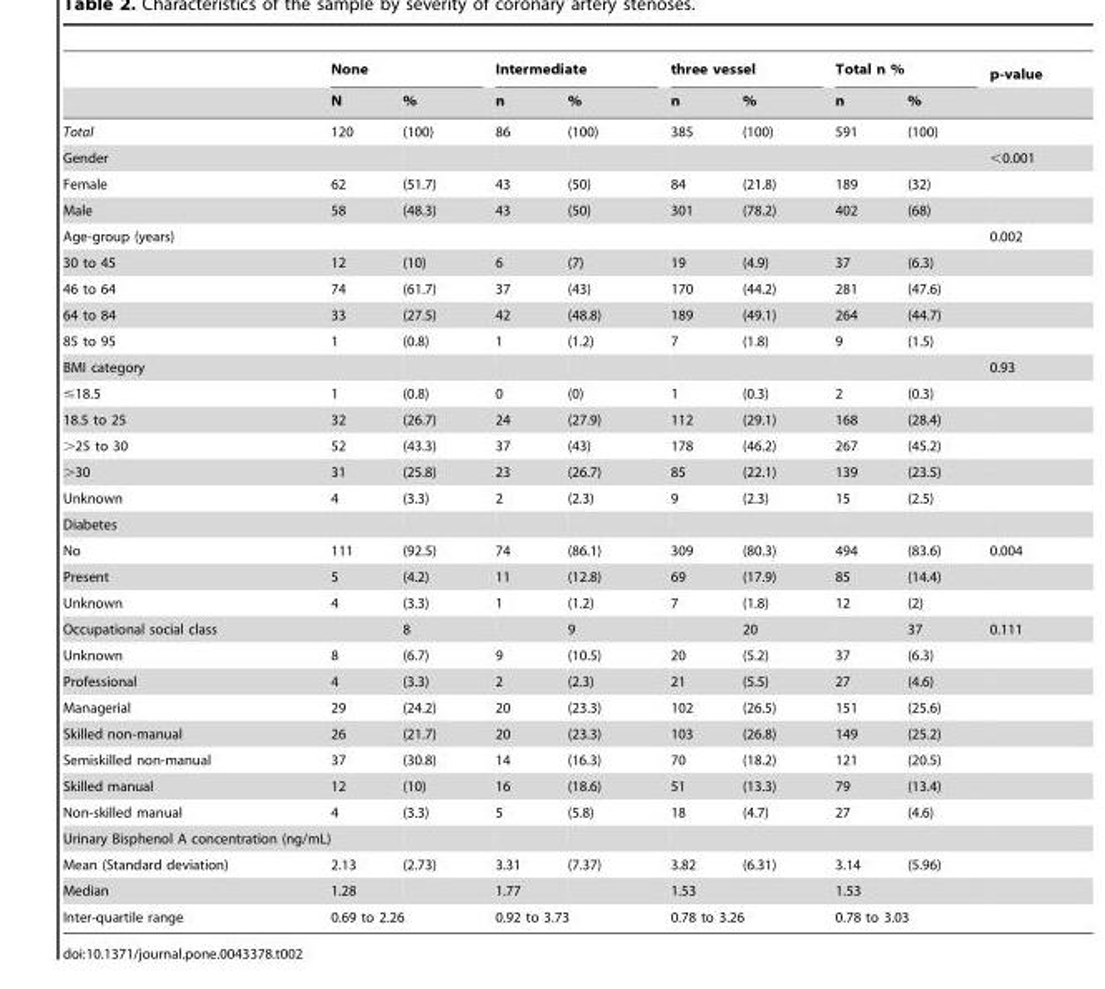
<table><thead><tr><td rowspan="2"></td><td colspan="2">None</td><td colspan="2">Intermediate</td><td colspan="2">three vessel</td><td colspan="2">Total n %</td><td rowspan="2">p-value</td></tr><tr><td>N</td><td>%</td><td>n</td><td>%</td><td>n</td><td>%</td><td>n</td><td>%</td></tr></thead><tbody><tr><td>Total</td><td>120</td><td>(100)</td><td>86</td><td>(100)</td><td>385</td><td>(100)</td><td>591</td><td>(100)</td><td></td></tr><tr><td>Gender</td><td></td><td></td><td></td><td></td><td></td><td></td><td></td><td></td><td>&lt;0.001</td></tr><tr><td>Female</td><td>62</td><td>(51.7)</td><td>43</td><td>(50)</td><td>84</td><td>(21.8)</td><td>189</td><td>(32)</td><td></td></tr><tr><td>Male</td><td>58</td><td>(48.3)</td><td>43</td><td>(50)</td><td>301</td><td>(78.2)</td><td>402</td><td>(68)</td><td></td></tr><tr><td>Age-group (years)</td><td></td><td></td><td></td><td></td><td></td><td></td><td></td><td></td><td>0.002</td></tr><tr><td>30 to 45</td><td>12</td><td>(10)</td><td>6</td><td>(7)</td><td>19</td><td>(4.9)</td><td>37</td><td>(6.3)</td><td></td></tr><tr><td>46 to 64</td><td>74</td><td>(61.7)</td><td>37</td><td>(43)</td><td>170</td><td>(44.2)</td><td>281</td><td>(47.6)</td><td></td></tr><tr><td>64 to 84</td><td>33</td><td>(27.5)</td><td>42</td><td>(48.8)</td><td>189</td><td>(49.1)</td><td>264</td><td>(44.7)</td><td></td></tr><tr><td>85 to 95</td><td>1</td><td>(0.8)</td><td>1</td><td>(1.2)</td><td>7</td><td>(1.8)</td><td>9</td><td>(1.5)</td><td></td></tr><tr><td>BMI category</td><td></td><td></td><td></td><td></td><td></td><td></td><td></td><td></td><td>0.93</td></tr><tr><td>≤18.5</td><td>1</td><td>(0.8)</td><td>0</td><td>(0)</td><td>1</td><td>(0.3)</td><td>2</td><td>(0.3)</td><td></td></tr><tr><td>18.5 to 25</td><td>32</td><td>(26.7)</td><td>24</td><td>(27.9)</td><td>112</td><td>(29.1)</td><td>168</td><td>(28.4)</td><td></td></tr><tr><td>&gt;25 to 30</td><td>52</td><td>(43.3)</td><td>37</td><td>(43)</td><td>178</td><td>(46.2)</td><td>267</td><td>(45.2)</td><td></td></tr><tr><td>&gt;30</td><td>31</td><td>(25.8)</td><td>23</td><td>(26.7)</td><td>85</td><td>(22.1)</td><td>139</td><td>(23.5)</td><td></td></tr><tr><td>Unknown</td><td>4</td><td>(3.3)</td><td>2</td><td>(2.3)</td><td>9</td><td>(2.3)</td><td>15</td><td>(2.5)</td><td></td></tr><tr><td colspan="10">Diabetes</td></tr><tr><td>No</td><td>111</td><td>(92.5)</td><td>74</td><td>(86.1)</td><td>309</td><td>(80.3)</td><td>494</td><td>(83.6)</td><td>0.004</td></tr><tr><td>Present</td><td>5</td><td>(4.2)</td><td>11</td><td>(12.8)</td><td>69</td><td>(17.9)</td><td>85</td><td>(14.4)</td><td></td></tr><tr><td>Unknown</td><td>4</td><td>(3.3)</td><td>1</td><td>(1.2)</td><td>7</td><td>(1.8)</td><td>12</td><td>(2)</td><td></td></tr><tr><td>Occupational social class</td><td></td><td>8</td><td></td><td>9</td><td></td><td>20</td><td></td><td>37</td><td>0.111</td></tr><tr><td>Unknown</td><td>8</td><td>(6.7)</td><td>9</td><td>(10.5)</td><td>20</td><td>(5.2)</td><td>37</td><td>(6.3)</td><td></td></tr><tr><td>Professional</td><td>4</td><td>(3.3)</td><td>2</td><td>(2.3)</td><td>21</td><td>(5.5)</td><td>27</td><td>(4.6)</td><td></td></tr><tr><td>Managerial</td><td>29</td><td>(24.2)</td><td>20</td><td>(23.3)</td><td>102</td><td>(26.5)</td><td>151</td><td>(25.6)</td><td></td></tr><tr><td>Skilled non-manual</td><td>26</td><td>(21.7)</td><td>20</td><td>(23.3)</td><td>103</td><td>(26.8)</td><td>149</td><td>(25.2)</td><td></td></tr><tr><td>Semiskilled non-manual</td><td>37</td><td>(30.8)</td><td>14</td><td>(16.3)</td><td>70</td><td>(18.2)</td><td>121</td><td>(20.5)</td><td></td></tr><tr><td>Skilled manual</td><td>12</td><td>(10)</td><td>16</td><td>(18.6)</td><td>51</td><td>(13.3)</td><td>79</td><td>(13.4)</td><td></td></tr><tr><td>Non-skilled manual</td><td>4</td><td>(3.3)</td><td>5</td><td>(5.8)</td><td>18</td><td>(4.7)</td><td>27</td><td>(4.6)</td><td></td></tr><tr><td colspan="10">Urinary Bisphenol A concentration (ng/mL)</td></tr><tr><td>Mean (Standard deviation)</td><td>2.13</td><td>(2.73)</td><td>3.31</td><td>(7.37)</td><td>3.82</td><td>(6.31)</td><td>3.14</td><td>(5.96)</td><td></td></tr><tr><td>Median</td><td>1.28</td><td></td><td>1.77</td><td></td><td>1.53</td><td></td><td>1.53</td><td></td><td></td></tr><tr><td>Inter-quartile range</td><td colspan="2">0.69 to 2.26</td><td colspan="2">0.92 to 3.73</td><td colspan="2">0.78 to 3.26</td><td colspan="2">0.78 to 3.03</td><td></td></tr></tbody></table>